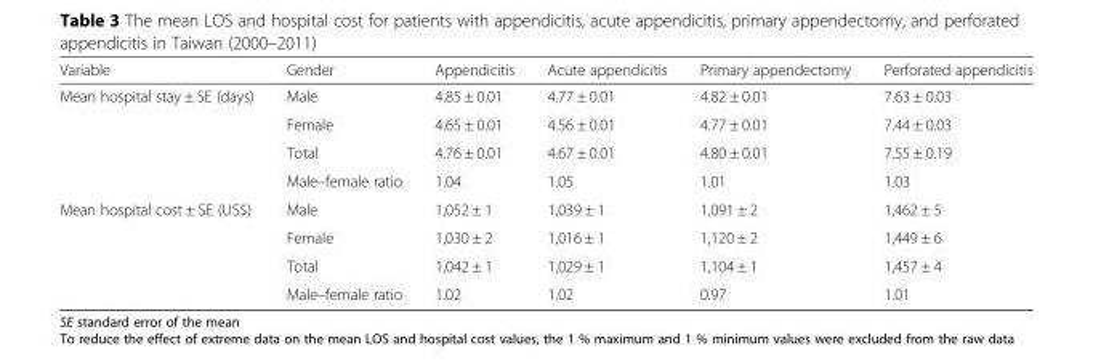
<table><thead><tr><td>Variable</td><td>Gender</td><td>Appendicitis</td><td>Acute appendicitis</td><td>Primary appendectomy</td><td>Perforated appendicitis</td></tr></thead><tbody><tr><td rowspan="4">Mean hospital stay ± SE (days)</td><td>Male</td><td>4.85 ± 0.01</td><td>4.77 ± 0.01</td><td>4.82 ± 0.01</td><td>7.63 ± 0.03</td></tr><tr><td>Female</td><td>4.65 ± 0.01</td><td>4.56 ± 0.01</td><td>4.77 ± 0.01</td><td>7.44 ± 0.03</td></tr><tr><td>Total</td><td>4.76 ± 0.01</td><td>4.67 ± 0.01</td><td>4.80 ± 0.01</td><td>7.55 ± 0.19</td></tr><tr><td>Male–female ratio</td><td>1.04</td><td>1.05</td><td>1.01</td><td>1.03</td></tr><tr><td rowspan="4">Mean hospital cost ± SE (US$)</td><td>Male</td><td>1,052 ± 1</td><td>1,039 ± 1</td><td>1,091 ± 2</td><td>1,462 ± 5</td></tr><tr><td>Female</td><td>1,030 ± 2</td><td>1,016 ± 1</td><td>1,120 ± 2</td><td>1,449 ± 6</td></tr><tr><td>Total</td><td>1,042 ± 1</td><td>1,029 ± 1</td><td>1,104 ± 1</td><td>1,457 ± 4</td></tr><tr><td>Male–female ratio</td><td>1.02</td><td>1.02</td><td>0.97</td><td>1.01</td></tr></tbody></table>